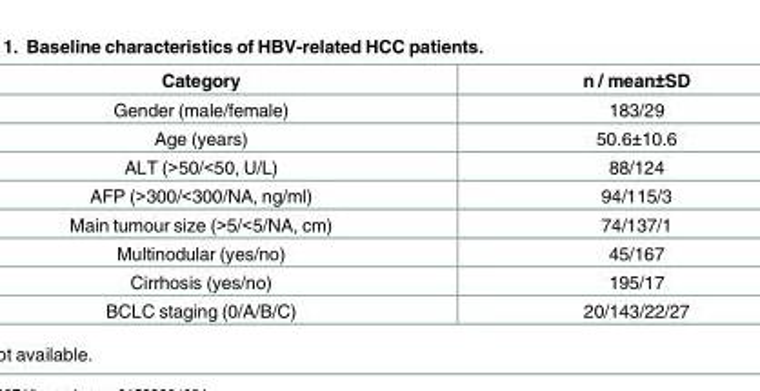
<table><thead><tr><td>Category</td><td>n / mean±SD</td></tr></thead><tbody><tr><td>Gender (male/female)</td><td>183/29</td></tr><tr><td>Age (years)</td><td>50.6±10.6</td></tr><tr><td>ALT (&gt;50/&lt;50, U/L)</td><td>88/124</td></tr><tr><td>AFP (&gt;300/&lt;300/NA, ng/ml)</td><td>94/115/3</td></tr><tr><td>Main tumour size (&gt;5/&lt;5/NA, cm)</td><td>74/137/1</td></tr><tr><td>Multinodular (yes/no)</td><td>45/167</td></tr><tr><td>Cirrhosis (yes/no)</td><td>195/17</td></tr><tr><td>BCLC staging (0/A/B/C)</td><td>20/143/22/27</td></tr></tbody></table>